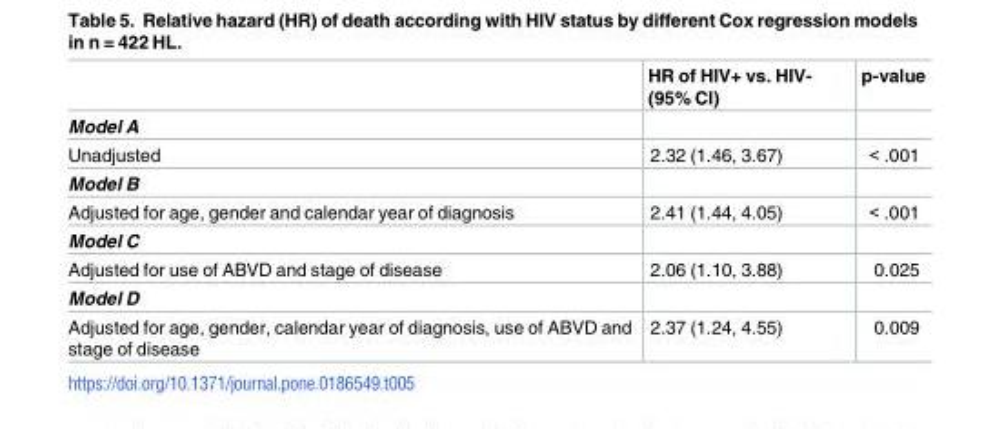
<table><thead><tr><td></td><td>HR of HIV+ vs. HIV- (95% CI)</td><td>p-value</td></tr></thead><tbody><tr><td colspan="3">Model A</td></tr><tr><td>Unadjusted</td><td>2.32 (1.46, 3.67)</td><td>&lt; .001</td></tr><tr><td colspan="3">Model B</td></tr><tr><td>Adjusted for age, gender and calendar year of diagnosis</td><td>2.41 (1.44, 4.05)</td><td>&lt; .001</td></tr><tr><td colspan="3">Model C</td></tr><tr><td>Adjusted for use of ABVD and stage of disease</td><td>2.06 (1.10, 3.88)</td><td>0.025</td></tr><tr><td colspan="3">Model D</td></tr><tr><td>Adjusted for age, gender, calendar year of diagnosis, use of ABVD and stage of disease</td><td>2.37 (1.24, 4.55)</td><td>0.009</td></tr></tbody></table>